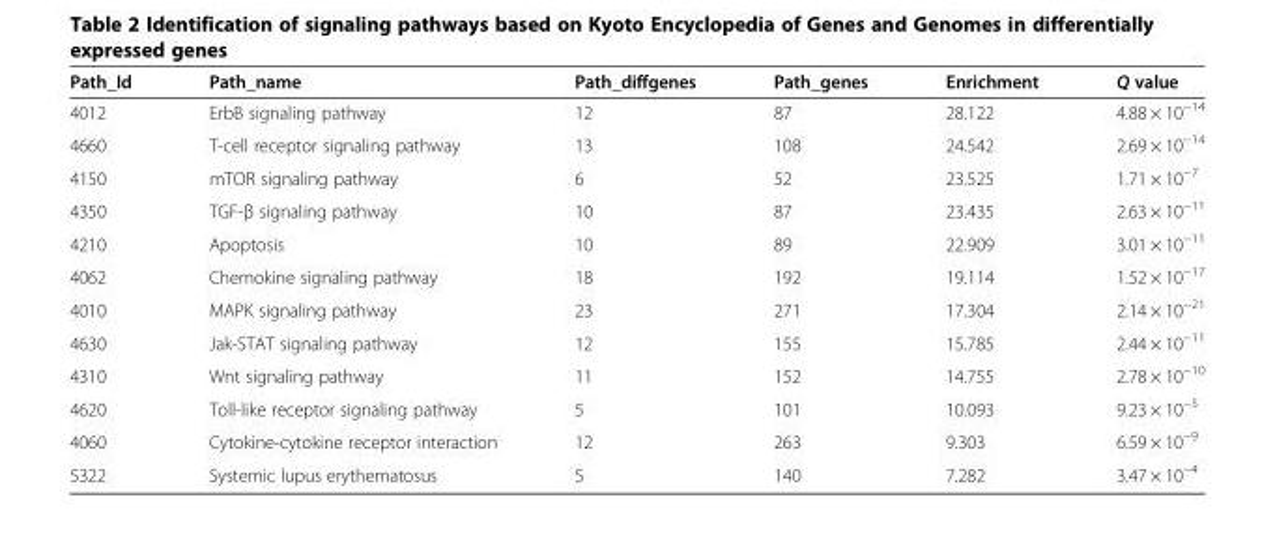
<table><thead><tr><td>Path_Id</td><td>Path_name</td><td>Path_diffgenes</td><td>Path_genes</td><td>Enrichment</td><td>Q value</td></tr></thead><tbody><tr><td>4012</td><td>ErbB signaling pathway</td><td>12</td><td>87</td><td>28.122</td><td>4.88 × 10<sup>−14</sup></td></tr><tr><td>4660</td><td>T-cell receptor signaling pathway</td><td>13</td><td>108</td><td>24.542</td><td>2.69 × 10<sup>−14</sup></td></tr><tr><td>4150</td><td>mTOR signaling pathway</td><td>6</td><td>52</td><td>23.525</td><td>1.71 × 10<sup>−7</sup></td></tr><tr><td>4350</td><td>TGF-β signaling pathway</td><td>10</td><td>87</td><td>23.435</td><td>2.63 × 10<sup>−11</sup></td></tr><tr><td>4210</td><td>Apoptosis</td><td>10</td><td>89</td><td>22.909</td><td>3.01 × 10<sup>−11</sup></td></tr><tr><td>4062</td><td>Chemokine signaling pathway</td><td>18</td><td>192</td><td>19.114</td><td>1.52 × 10<sup>−17</sup></td></tr><tr><td>4010</td><td>MAPK signaling pathway</td><td>23</td><td>271</td><td>17.304</td><td>2.14 × 10<sup>−21</sup></td></tr><tr><td>4630</td><td>Jak-STAT signaling pathway</td><td>12</td><td>155</td><td>15.785</td><td>2.44 × 10<sup>−11</sup></td></tr><tr><td>4310</td><td>Wnt signaling pathway</td><td>11</td><td>152</td><td>14.755</td><td>2.78 × 10<sup>−10</sup></td></tr><tr><td>4620</td><td>Toll-like receptor signaling pathway</td><td>5</td><td>101</td><td>10.093</td><td>9.23 × 10<sup>−5</sup></td></tr><tr><td>4060</td><td>Cytokine-cytokine receptor interaction</td><td>12</td><td>263</td><td>9.303</td><td>6.59 × 10<sup>−9</sup></td></tr><tr><td>5322</td><td>Systemic lupus erythematosus</td><td>5</td><td>140</td><td>7.282</td><td>3.47 × 10<sup>−4</sup></td></tr></tbody></table>